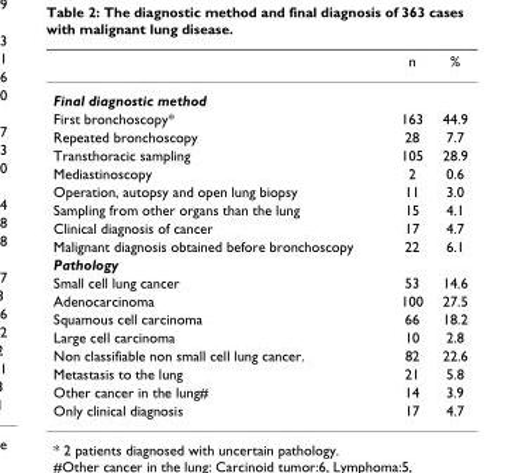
<table><thead><tr><td></td><td>n</td><td>%</td></tr></thead><tbody><tr><td colspan="3">Final diagnostic method</td></tr><tr><td>First bronchoscopy*</td><td>163</td><td>44.9</td></tr><tr><td>Repeated bronchoscopy</td><td>28</td><td>7.7</td></tr><tr><td>Transthoracic sampling</td><td>105</td><td>28.9</td></tr><tr><td>Mediastinoscopy</td><td>2</td><td>0.6</td></tr><tr><td>Operation, autopsy and open lung biopsy</td><td>11</td><td>3.0</td></tr><tr><td>Sampling from other organs than the lung</td><td>15</td><td>4.1</td></tr><tr><td>Clinical diagnosis of cancer</td><td>17</td><td>4.7</td></tr><tr><td>Malignant diagnosis obtained before bronchoscopy</td><td>22</td><td>6.1</td></tr><tr><td colspan="3">Pathology</td></tr><tr><td>Small cell lung cancer</td><td>53</td><td>14.6</td></tr><tr><td>Adenocarcinoma</td><td>100</td><td>27.5</td></tr><tr><td>Squamous cell carcinoma</td><td>66</td><td>18.2</td></tr><tr><td>Large cell carcinoma</td><td>10</td><td>2.8</td></tr><tr><td>Non classifiable non small cell lung cancer.</td><td>82</td><td>22.6</td></tr><tr><td>Metastasis to the lung</td><td>21</td><td>5.8</td></tr><tr><td>Other cancer in the lung#</td><td>14</td><td>3.9</td></tr><tr><td>Only clinical diagnosis</td><td>17</td><td>4.7</td></tr></tbody></table>